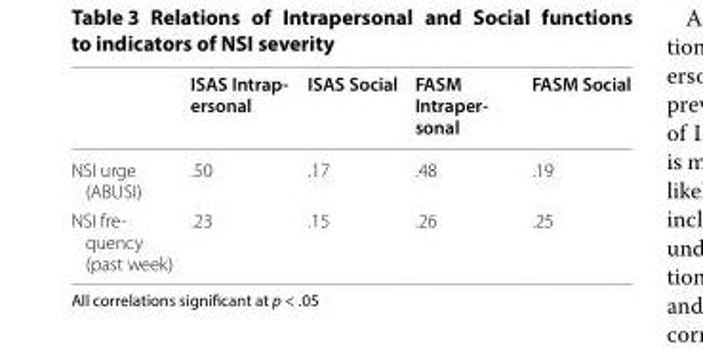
<table><thead><tr><td></td><td>ISAS Intrap‑ ersonal</td><td>ISAS Social</td><td>FASM Intraper‑ sonal</td><td>FASM Social</td></tr></thead><tbody><tr><td>NSI urge (ABUSI)</td><td>.50</td><td>.17</td><td>.48</td><td>.19</td></tr><tr><td>NSI fre- quency (past week)</td><td>.23</td><td>.15</td><td>.26</td><td>.25</td></tr></tbody></table>